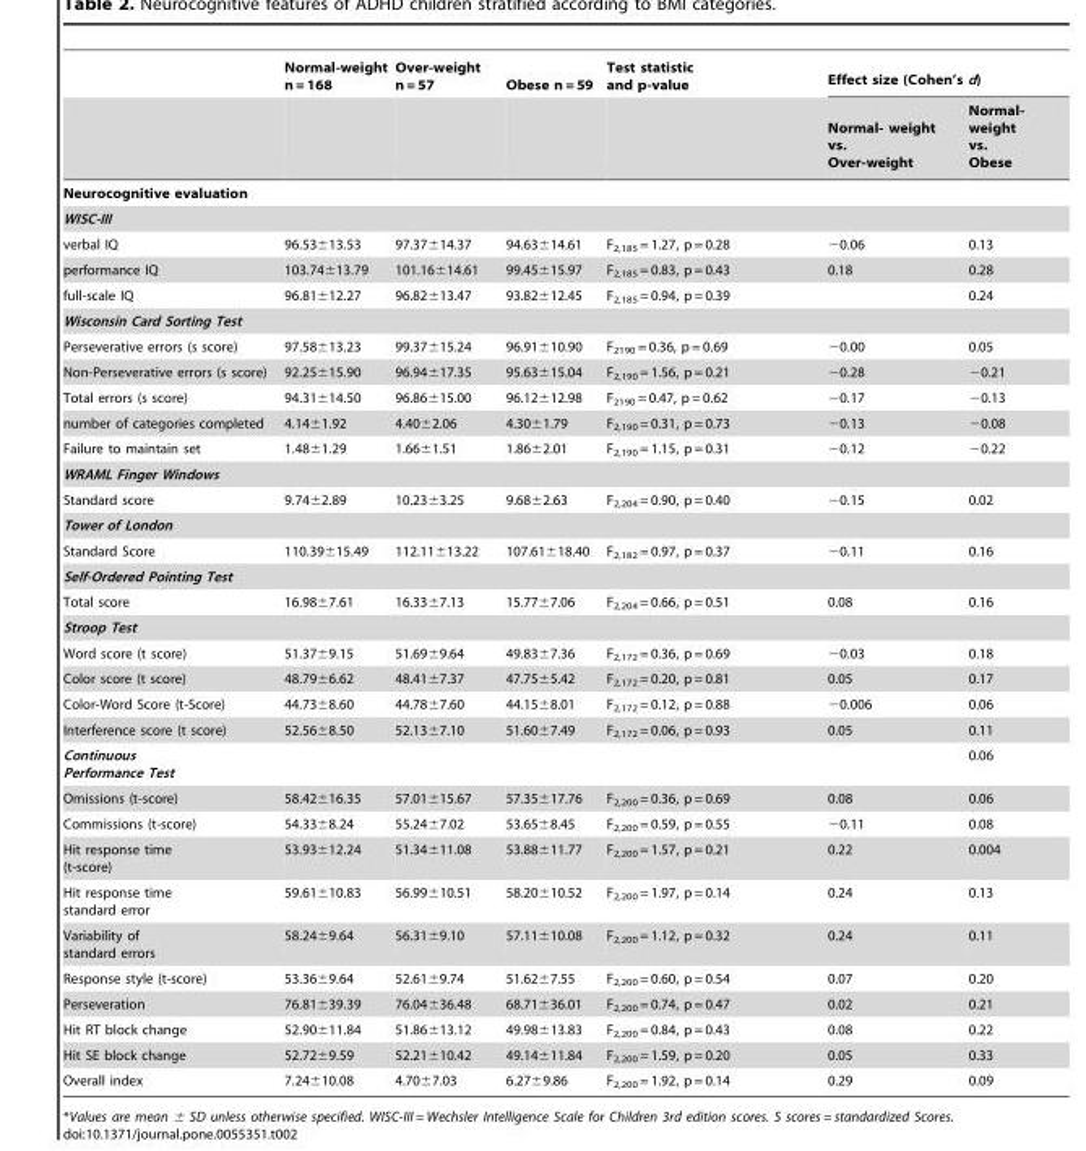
<table><thead><tr><td rowspan="2"></td><td rowspan="2">Normal-weight n = 168</td><td rowspan="2">Over-weight n = 57</td><td rowspan="2">Obese n = 59</td><td rowspan="2">Test statistic and p-value</td><td colspan="2">Effect size (Cohen’s d)</td></tr><tr><td>Normal- weight vs. Over-weight</td><td>Normal- weight vs. Obese</td></tr></thead><tbody><tr><td colspan="7">Neurocognitive evaluation</td></tr><tr><td colspan="7">WISC-III</td></tr><tr><td>verbal IQ</td><td>96.53±13.53</td><td>97.37±14.37</td><td>94.63±14.61</td><td>F<sub>2,185</sub> = 1.27, p = 0.28</td><td>−0.06</td><td>0.13</td></tr><tr><td>performance IQ</td><td>103.74±13.79</td><td>101.16±14.61</td><td>99.45±15.97</td><td>F<sub>2,185</sub> = 0.83, p = 0.43</td><td>0.18</td><td>0.28</td></tr><tr><td>full-scale IQ</td><td>96.81±12.27</td><td>96.82±13.47</td><td>93.82±12.45</td><td>F<sub>2,185</sub> = 0.94, p = 0.39</td><td></td><td>0.24</td></tr><tr><td colspan="7">Wisconsin Card Sorting Test</td></tr><tr><td>Perseverative errors (s score)</td><td>97.58±13.23</td><td>99.37±15.24</td><td>96.91±10.90</td><td>F<sub>2190</sub> = 0.36, p = 0.69</td><td>−0.00</td><td>0.05</td></tr><tr><td>Non-Perseverative errors (s score)</td><td>92.25±15.90</td><td>96.94±17.35</td><td>95.63±15.04</td><td>F<sub>2,190</sub> = 1.56, p = 0.21</td><td>−0.28</td><td>−0.21</td></tr><tr><td>Total errors (s score)</td><td>94.31±14.50</td><td>96.86±15.00</td><td>96.12±12.98</td><td>F<sub>2190</sub> = 0.47, p = 0.62</td><td>−0.17</td><td>−0.13</td></tr><tr><td>number of categories completed</td><td>4.14±1.92</td><td>4.40±2.06</td><td>4.30±1.79</td><td>F<sub>2,190</sub> = 0.31, p = 0.73</td><td>−0.13</td><td>−0.08</td></tr><tr><td>Failure to maintain set</td><td>1.48±1.29</td><td>1.66±1.51</td><td>1.86±2.01</td><td>F<sub>2,190</sub> = 1.15, p = 0.31</td><td>−0.12</td><td>−0.22</td></tr><tr><td colspan="7">WRAML Finger Windows</td></tr><tr><td>Standard score</td><td>9.74±2.89</td><td>10.23±3.25</td><td>9.68±2.63</td><td>F<sub>2,204</sub> = 0.90, p = 0.40</td><td>−0.15</td><td>0.02</td></tr><tr><td colspan="7">Tower of London</td></tr><tr><td>Standard Score</td><td>110.39±15.49</td><td>112.11±13.22</td><td>107.61±18.40</td><td>F<sub>2,182</sub> = 0.97, p = 0.37</td><td>−0.11</td><td>0.16</td></tr><tr><td colspan="7">Self-Ordered Pointing Test</td></tr><tr><td>Total score</td><td>16.98±7.61</td><td>16.33±7.13</td><td>15.77±7.06</td><td>F<sub>2,204</sub> = 0.66, p = 0.51</td><td>0.08</td><td>0.16</td></tr><tr><td colspan="7">Stroop Test</td></tr><tr><td>Word score (t score)</td><td>51.37±9.15</td><td>51.69±9.64</td><td>49.83±7.36</td><td>F<sub>2,172</sub> = 0.36, p = 0.69</td><td>−0.03</td><td>0.18</td></tr><tr><td>Color score (t score)</td><td>48.79±6.62</td><td>48.41±7.37</td><td>47.75±5.42</td><td>F<sub>2,172</sub> = 0.20, p = 0.81</td><td>0.05</td><td>0.17</td></tr><tr><td>Color-Word Score (t-Score)</td><td>44.73±8.60</td><td>44.78±7.60</td><td>44.15±8.01</td><td>F<sub>2,172</sub> = 0.12, p = 0.88</td><td>−0.006</td><td>0.06</td></tr><tr><td>Interference score (t score)</td><td>52.56±8.50</td><td>52.13±7.10</td><td>51.60±7.49</td><td>F<sub>2,172</sub> = 0.06, p = 0.93</td><td>0.05</td><td>0.11</td></tr><tr><td>Continuous Performance Test</td><td></td><td></td><td></td><td></td><td></td><td>0.06</td></tr><tr><td>Omissions (t-score)</td><td>58.42±16.35</td><td>57.01±15.67</td><td>57.35±17.76</td><td>F<sub>2,200</sub> = 0.36, p = 0.69</td><td>0.08</td><td>0.06</td></tr><tr><td>Commissions (t-score)</td><td>54.33±8.24</td><td>55.24±7.02</td><td>53.65±8.45</td><td>F<sub>2,200</sub> = 0.59, p = 0.55</td><td>−0.11</td><td>0.08</td></tr><tr><td>Hit response time (t-score)</td><td>53.93±12.24</td><td>51.34±11.08</td><td>53.88±11.77</td><td>F<sub>2,200</sub> = 1.57, p = 0.21</td><td>0.22</td><td>0.004</td></tr><tr><td>Hit response time standard error</td><td>59.61±10.83</td><td>56.99±10.51</td><td>58.20±10.52</td><td>F<sub>2,200</sub> = 1.97, p = 0.14</td><td>0.24</td><td>0.13</td></tr><tr><td>Variability of standard errors</td><td>58.24±9.64</td><td>56.31±9.10</td><td>57.11±10.08</td><td>F<sub>2,200</sub> = 1.12, p = 0.32</td><td>0.24</td><td>0.11</td></tr><tr><td>Response style (t-score)</td><td>53.36±9.64</td><td>52.61±9.74</td><td>51.62±7.55</td><td>F<sub>2,200</sub> = 0.60, p = 0.54</td><td>0.07</td><td>0.20</td></tr><tr><td>Perseveration</td><td>76.81±39.39</td><td>76.04±36.48</td><td>68.71±36.01</td><td>F<sub>2,200</sub> = 0.74, p = 0.47</td><td>0.02</td><td>0.21</td></tr><tr><td>Hit RT block change</td><td>52.90±11.84</td><td>51.86±13.12</td><td>49.98±13.83</td><td>F<sub>2,200</sub> = 0.84, p = 0.43</td><td>0.08</td><td>0.22</td></tr><tr><td>Hit SE block change</td><td>52.72±9.59</td><td>52.21±10.42</td><td>49.14±11.84</td><td>F<sub>2,200</sub> = 1.59, p = 0.20</td><td>0.05</td><td>0.33</td></tr><tr><td>Overall index</td><td>7.24±10.08</td><td>4.70±7.03</td><td>6.27±9.86</td><td>F<sub>2,200</sub> = 1.92, p = 0.14</td><td>0.29</td><td>0.09</td></tr></tbody></table>